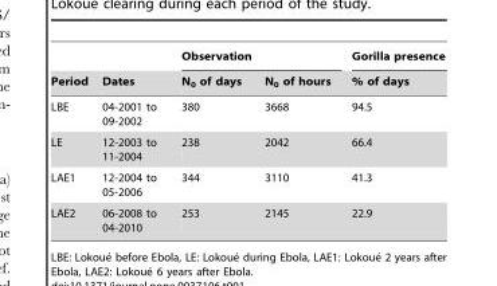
<table><thead><tr><td rowspan="2">Period</td><td rowspan="2">Dates</td><td colspan="2">Observation</td><td rowspan="2">Gorilla presence % of days</td></tr><tr><td>N<sub>0</sub> of days</td><td>N<sub>0</sub> of hours</td></tr></thead><tbody><tr><td>LBE</td><td>04-2001 to 09-2002</td><td>380</td><td>3668</td><td>94.5</td></tr><tr><td>LE</td><td>12-2003 to 11-2004</td><td>238</td><td>2042</td><td>66.4</td></tr><tr><td>LAE1</td><td>12-2004 to 05-2006</td><td>344</td><td>3110</td><td>41.3</td></tr><tr><td>LAE2</td><td>06-2008 to 04-2010</td><td>253</td><td>2145</td><td>22.9</td></tr></tbody></table>